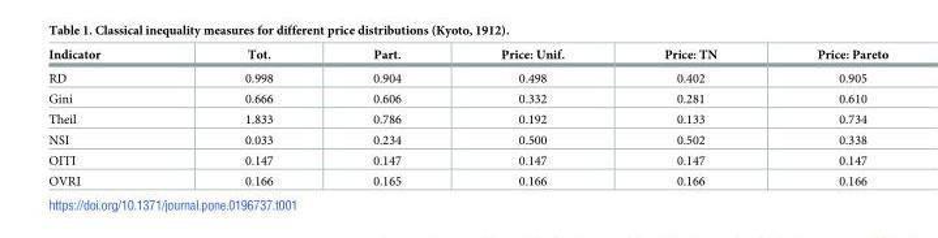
<table><thead><tr><td>Indicator</td><td>Tot.</td><td>Part.</td><td>Price: Unif.</td><td>Price: TN</td><td>Price: Pareto</td></tr></thead><tbody><tr><td>RD</td><td>0.998</td><td>0.904</td><td>0.498</td><td>0.402</td><td>0.905</td></tr><tr><td>Gini</td><td>0.666</td><td>0.606</td><td>0.332</td><td>0.281</td><td>0.610</td></tr><tr><td>Theil</td><td>1.833</td><td>0.786</td><td>0.192</td><td>0.133</td><td>0.734</td></tr><tr><td>NSI</td><td>0.033</td><td>0.234</td><td>0.500</td><td>0.502</td><td>0.338</td></tr><tr><td>OITI</td><td>0.147</td><td>0.147</td><td>0.147</td><td>0.147</td><td>0.147</td></tr><tr><td>OVRI</td><td>0.166</td><td>0.165</td><td>0.166</td><td>0.166</td><td>0.166</td></tr></tbody></table>